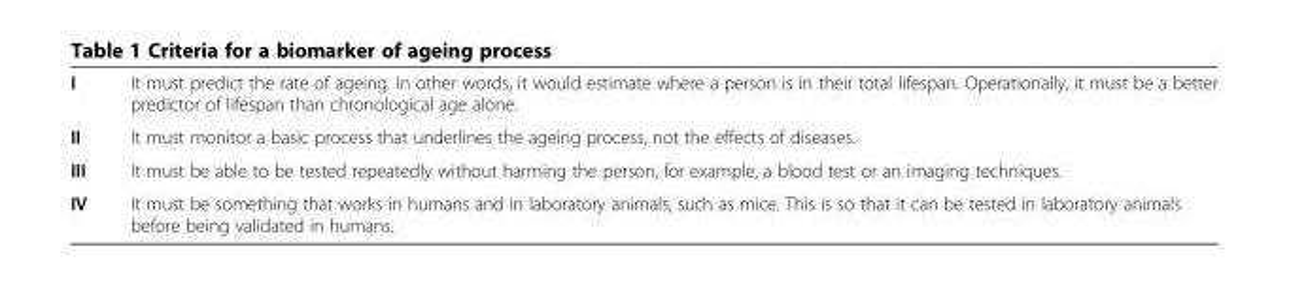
<table><tbody><tr><td>I</td><td>It must predict the rate of ageing. In other words, it would estimate where a person is in their total lifespan. Operationally, it must be a better predictor of lifespan than chronological age alone.</td></tr><tr><td>II</td><td>It must monitor a basic process that underlines the ageing process, not the effects of diseases.</td></tr><tr><td>III</td><td>It must be able to be tested repeatedly without harming the person, for example, a blood test or an imaging techniques.</td></tr><tr><td>IV</td><td>It must be something that works in humans and in laboratory animals, such as mice. This is so that it can be tested in laboratory animals before being validated in humans.</td></tr></tbody></table>